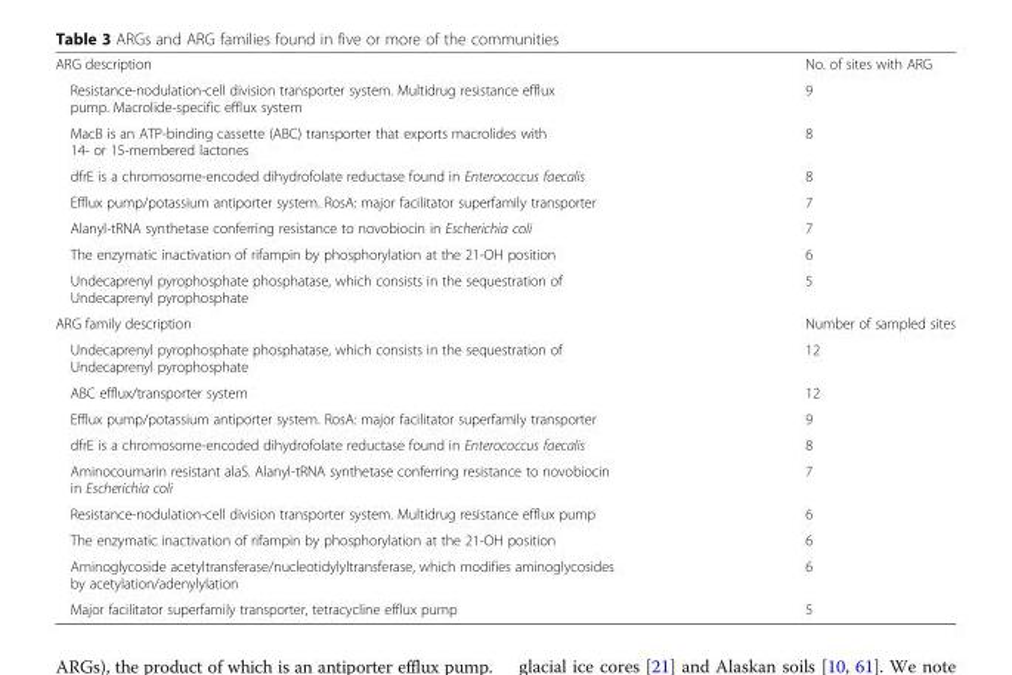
<table><tbody><tr><td>ARG description</td><td>No. of sites with ARG</td></tr><tr><td>Resistance-nodulation-cell division transporter system. Multidrug resistance efflux pump. Macrolide-specific efflux system</td><td>9</td></tr><tr><td>MacB is an ATP-binding cassette (ABC) transporter that exports macrolides with 14- or 15-membered lactones</td><td>8</td></tr><tr><td>dfrE is a chromosome-encoded dihydrofolate reductase found in Enterococcus faecalis</td><td>8</td></tr><tr><td>Efflux pump/potassium antiporter system. RosA: major facilitator superfamily transporter</td><td>7</td></tr><tr><td>Alanyl-tRNA synthetase conferring resistance to novobiocin in Escherichia coli</td><td>7</td></tr><tr><td>The enzymatic inactivation of rifampin by phosphorylation at the 21-OH position</td><td>6</td></tr><tr><td>Undecaprenyl pyrophosphate phosphatase, which consists in the sequestration of Undecaprenyl pyrophosphate</td><td>5</td></tr><tr><td>ARG family description</td><td>Number of sampled sites</td></tr><tr><td>Undecaprenyl pyrophosphate phosphatase, which consists in the sequestration of Undecaprenyl pyrophosphate</td><td>12</td></tr><tr><td>ABC efflux/transporter system</td><td>12</td></tr><tr><td>Efflux pump/potassium antiporter system. RosA: major facilitator superfamily transporter</td><td>9</td></tr><tr><td>dfrE is a chromosome-encoded dihydrofolate reductase found in Enterococcus faecalis</td><td>8</td></tr><tr><td>Aminocoumarin resistant alaS. Alanyl-tRNA synthetase conferring resistance to novobiocin in Escherichia coli</td><td>7</td></tr><tr><td>Resistance-nodulation-cell division transporter system. Multidrug resistance efflux pump</td><td>6</td></tr><tr><td>The enzymatic inactivation of rifampin by phosphorylation at the 21-OH position</td><td>6</td></tr><tr><td>Aminoglycoside acetyltransferase/nucleotidylyltransferase, which modifies aminoglycosides by acetylation/adenylylation</td><td>6</td></tr><tr><td>Major facilitator superfamily transporter, tetracycline efflux pump</td><td>5</td></tr></tbody></table>